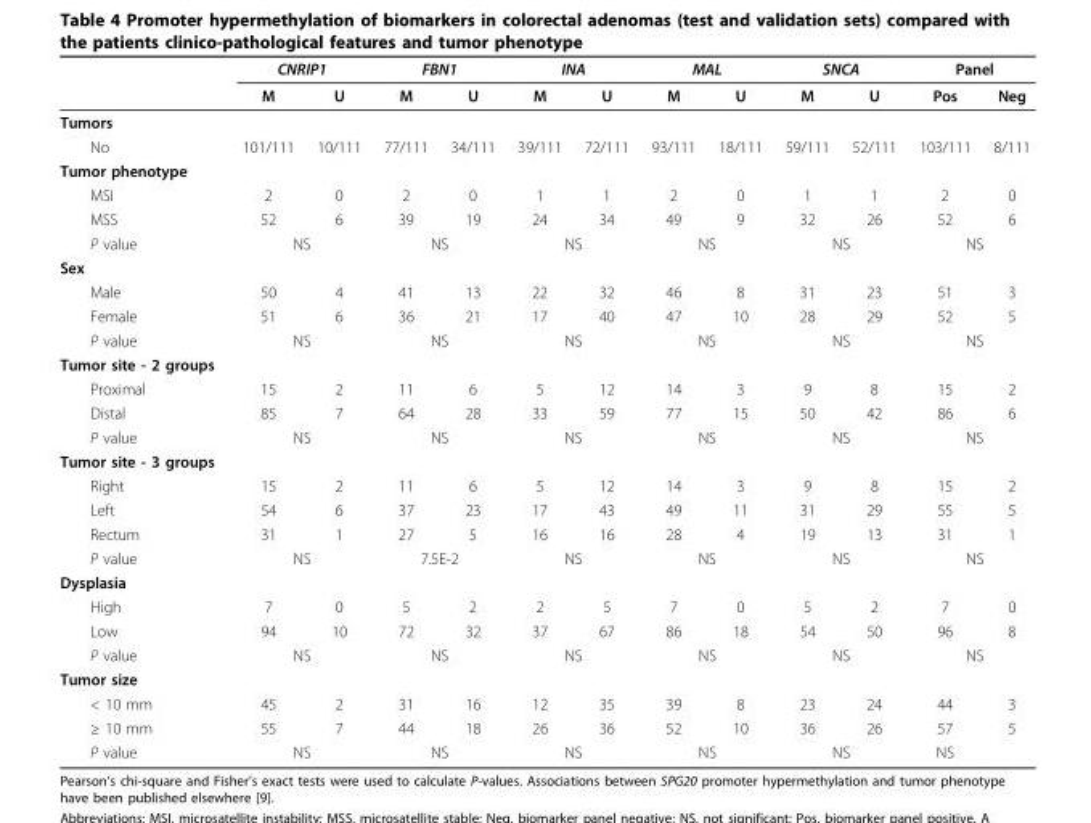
<table><thead><tr><td rowspan="2"></td><td colspan="2">CNRIP1</td><td colspan="2">FBN1</td><td colspan="2">INA</td><td colspan="2">MAL</td><td colspan="2">SNCA</td><td colspan="2">Panel</td></tr><tr><td>M</td><td>U</td><td>M</td><td>U</td><td>M</td><td>U</td><td>M</td><td>U</td><td>M</td><td>U</td><td>Pos</td><td>Neg</td></tr></thead><tbody><tr><td colspan="13">Tumors</td></tr><tr><td>No</td><td>101/111</td><td>10/111</td><td>77/111</td><td>34/111</td><td>39/111</td><td>72/111</td><td>93/111</td><td>18/111</td><td>59/111</td><td>52/111</td><td>103/111</td><td>8/111</td></tr><tr><td colspan="13">Tumor phenotype</td></tr><tr><td>MSI</td><td>2</td><td>0</td><td>2</td><td>0</td><td>1</td><td>1</td><td>2</td><td>0</td><td>1</td><td>1</td><td>2</td><td>0</td></tr><tr><td>MSS</td><td>52</td><td>6</td><td>39</td><td>19</td><td>24</td><td>34</td><td>49</td><td>9</td><td>32</td><td>26</td><td>52</td><td>6</td></tr><tr><td>P value</td><td colspan="2">NS</td><td colspan="2">NS</td><td colspan="2">NS</td><td colspan="2">NS</td><td colspan="2">NS</td><td colspan="2">NS</td></tr><tr><td colspan="13">Sex</td></tr><tr><td>Male</td><td>50</td><td>4</td><td>41</td><td>13</td><td>22</td><td>32</td><td>46</td><td>8</td><td>31</td><td>23</td><td>51</td><td>3</td></tr><tr><td>Female</td><td>51</td><td>6</td><td>36</td><td>21</td><td>17</td><td>40</td><td>47</td><td>10</td><td>28</td><td>29</td><td>52</td><td>5</td></tr><tr><td>P value</td><td colspan="2">NS</td><td colspan="2">NS</td><td colspan="2">NS</td><td colspan="2">NS</td><td colspan="2">NS</td><td colspan="2">NS</td></tr><tr><td colspan="13">Tumor site - 2 groups</td></tr><tr><td>Proximal</td><td>15</td><td>2</td><td>11</td><td>6</td><td>5</td><td>12</td><td>14</td><td>3</td><td>9</td><td>8</td><td>15</td><td>2</td></tr><tr><td>Distal</td><td>85</td><td>7</td><td>64</td><td>28</td><td>33</td><td>59</td><td>77</td><td>15</td><td>50</td><td>42</td><td>86</td><td>6</td></tr><tr><td>P value</td><td colspan="2">NS</td><td colspan="2">NS</td><td colspan="2">NS</td><td colspan="2">NS</td><td colspan="2">NS</td><td colspan="2">NS</td></tr><tr><td colspan="13">Tumor site - 3 groups</td></tr><tr><td>Right</td><td>15</td><td>2</td><td>11</td><td>6</td><td>5</td><td>12</td><td>14</td><td>3</td><td>9</td><td>8</td><td>15</td><td>2</td></tr><tr><td>Left</td><td>54</td><td>6</td><td>37</td><td>23</td><td>17</td><td>43</td><td>49</td><td>11</td><td>31</td><td>29</td><td>55</td><td>5</td></tr><tr><td>Rectum</td><td>31</td><td>1</td><td>27</td><td>5</td><td>16</td><td>16</td><td>28</td><td>4</td><td>19</td><td>13</td><td>31</td><td>1</td></tr><tr><td>P value</td><td colspan="2">NS</td><td colspan="2">7.5E-2</td><td colspan="2">NS</td><td colspan="2">NS</td><td colspan="2">NS</td><td colspan="2">NS</td></tr><tr><td colspan="13">Dysplasia</td></tr><tr><td>High</td><td>7</td><td>0</td><td>5</td><td>2</td><td>2</td><td>5</td><td>7</td><td>0</td><td>5</td><td>2</td><td>7</td><td>0</td></tr><tr><td>Low</td><td>94</td><td>10</td><td>72</td><td>32</td><td>37</td><td>67</td><td>86</td><td>18</td><td>54</td><td>50</td><td>96</td><td>8</td></tr><tr><td>P value</td><td colspan="2">NS</td><td colspan="2">NS</td><td colspan="2">NS</td><td colspan="2">NS</td><td colspan="2">NS</td><td colspan="2">NS</td></tr><tr><td colspan="13">Tumor size</td></tr><tr><td>&lt; 10 mm</td><td>45</td><td>2</td><td>31</td><td>16</td><td>12</td><td>35</td><td>39</td><td>8</td><td>23</td><td>24</td><td>44</td><td>3</td></tr><tr><td>≥ 10 mm</td><td>55</td><td>7</td><td>44</td><td>18</td><td>26</td><td>36</td><td>52</td><td>10</td><td>36</td><td>26</td><td>57</td><td>5</td></tr><tr><td>P value</td><td colspan="2">NS</td><td colspan="2">NS</td><td colspan="2">NS</td><td colspan="2">NS</td><td colspan="2">NS</td><td>NS</td><td></td></tr></tbody></table>